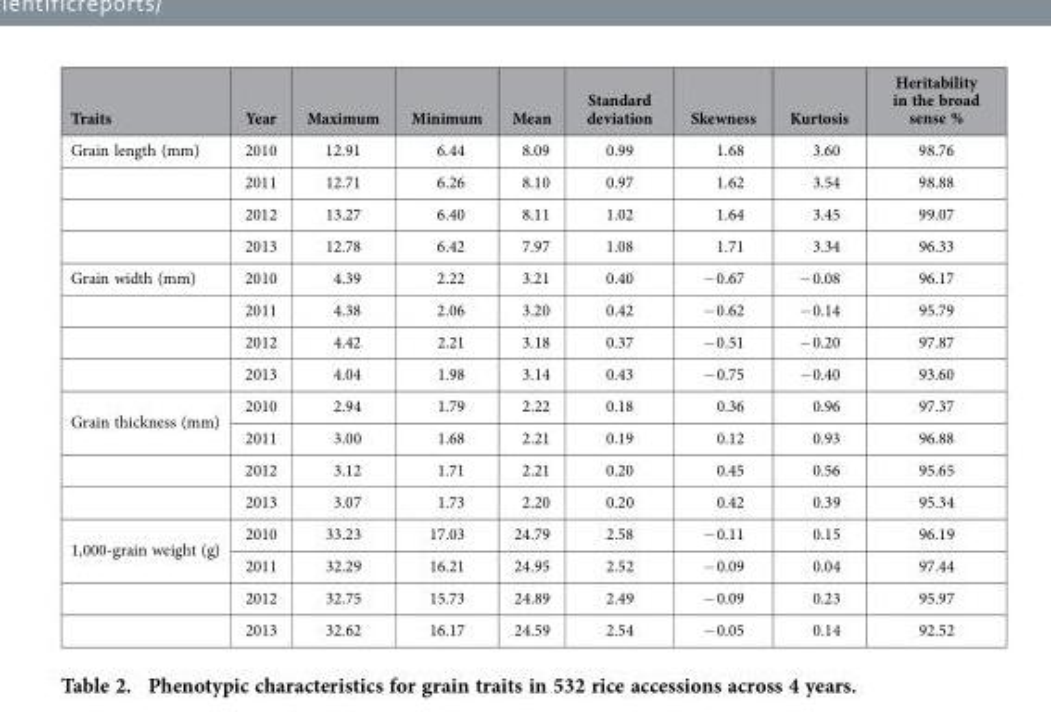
<table><thead><tr><td>Traits</td><td>Year</td><td>Maximum</td><td>Minimum</td><td>Mean</td><td>Standard deviation</td><td>Skewness</td><td>Kurtosis</td><td>Heritability in the broad sense %</td></tr></thead><tbody><tr><td rowspan="4">Grain length (mm)</td><td>2010</td><td>12.91</td><td>6.44</td><td>8.09</td><td>0.99</td><td>1.68</td><td>3.60</td><td>98.76</td></tr><tr><td>2011</td><td>12.71</td><td>6.26</td><td>8.10</td><td>0.97</td><td>1.62</td><td>3.54</td><td>98.88</td></tr><tr><td>2012</td><td>13.27</td><td>6.40</td><td>8.11</td><td>1.02</td><td>1.64</td><td>3.45</td><td>99.07</td></tr><tr><td>2013</td><td>12.78</td><td>6.42</td><td>7.97</td><td>1.08</td><td>1.71</td><td>3.34</td><td>96.33</td></tr><tr><td rowspan="4">Grain width (mm)</td><td>2010</td><td>4.39</td><td>2.22</td><td>3.21</td><td>0.40</td><td>− 0.67</td><td>− 0.08</td><td>96.17</td></tr><tr><td>2011</td><td>4.38</td><td>2.06</td><td>3.20</td><td>0.42</td><td>− 0.62</td><td>− 0.14</td><td>95.79</td></tr><tr><td>2012</td><td>4.42</td><td>2.21</td><td>3.18</td><td>0.37</td><td>− 0.51</td><td>− 0.20</td><td>97.87</td></tr><tr><td>2013</td><td>4.04</td><td>1.98</td><td>3.14</td><td>0.43</td><td>− 0.75</td><td>− 0.40</td><td>93.60</td></tr><tr><td rowspan="4">Grain thickness (mm)</td><td>2010</td><td>2.94</td><td>1.79</td><td>2.22</td><td>0.18</td><td>0.36</td><td>0.96</td><td>97.37</td></tr><tr><td>2011</td><td>3.00</td><td>1.68</td><td>2.21</td><td>0.19</td><td>0.12</td><td>0.93</td><td>96.88</td></tr><tr><td>2012</td><td>3.12</td><td>1.71</td><td>2.21</td><td>0.20</td><td>0.45</td><td>0.56</td><td>95.65</td></tr><tr><td>2013</td><td>3.07</td><td>1.73</td><td>2.20</td><td>0.20</td><td>0.42</td><td>0.39</td><td>95.34</td></tr><tr><td rowspan="4">1,000-grain weight (g)</td><td>2010</td><td>33.23</td><td>17.03</td><td>24.79</td><td>2.58</td><td>− 0.11</td><td>0.15</td><td>96.19</td></tr><tr><td>2011</td><td>32.29</td><td>16.21</td><td>24.95</td><td>2.52</td><td>− 0.09</td><td>0.04</td><td>97.44</td></tr><tr><td>2012</td><td>32.75</td><td>15.73</td><td>24.89</td><td>2.49</td><td>− 0.09</td><td>0.23</td><td>95.97</td></tr><tr><td>2013</td><td>32.62</td><td>16.17</td><td>24.59</td><td>2.54</td><td>− 0.05</td><td>0.14</td><td>92.52</td></tr></tbody></table>